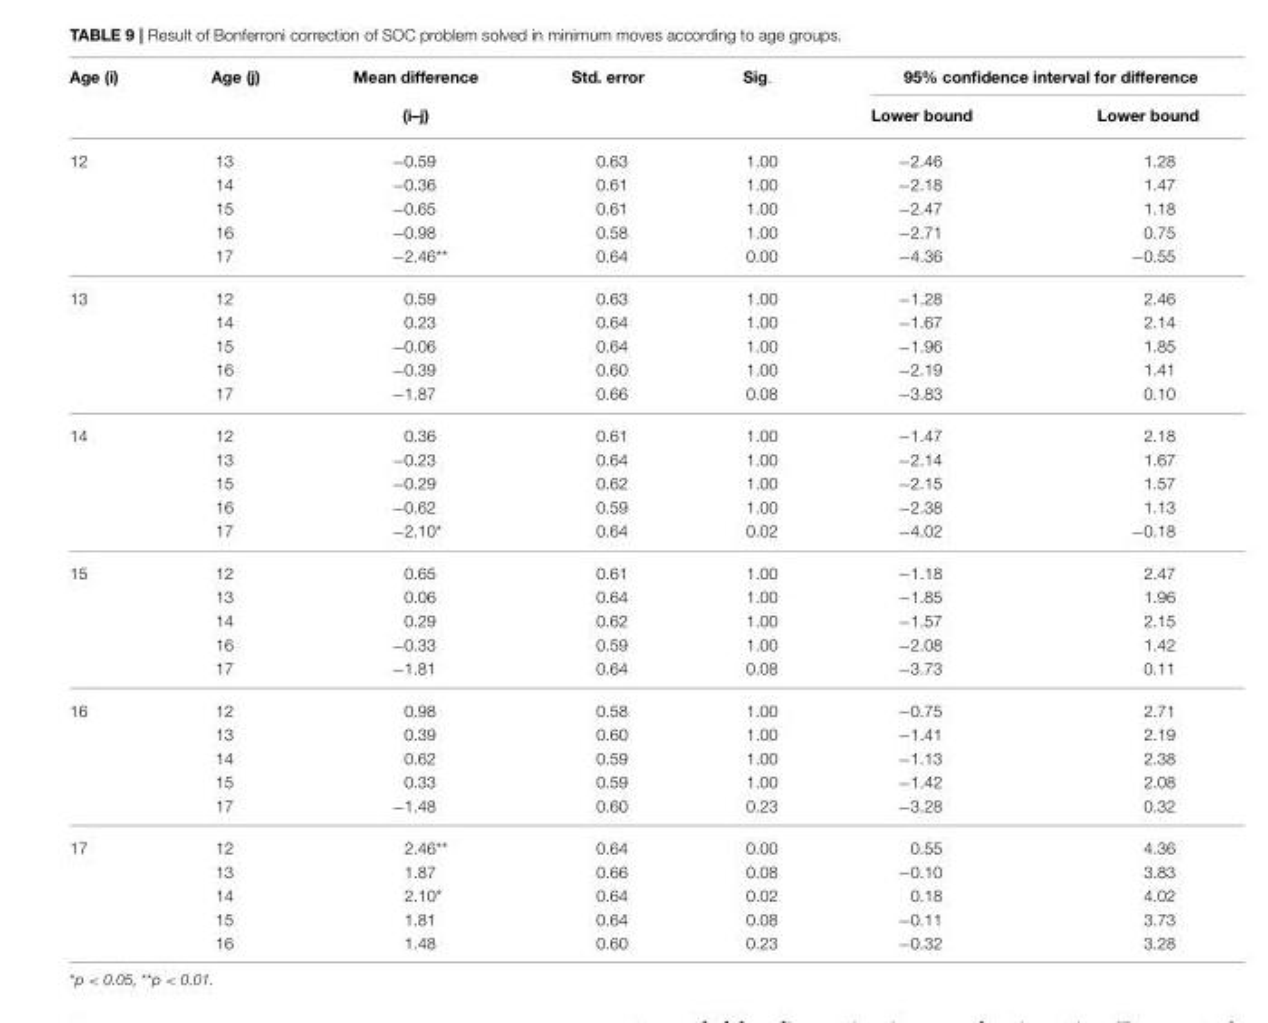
<table><thead><tr><td rowspan="2">Age (i)</td><td rowspan="2">Age (j)</td><td rowspan="2">Mean difference (i–j)</td><td rowspan="2">Std. error</td><td rowspan="2">Sig.</td><td colspan="2">95% confidence interval for difference</td></tr><tr><td>Lower bound</td><td>Lower bound</td></tr></thead><tbody><tr><td rowspan="5">12</td><td>13</td><td>−0.59</td><td>0.63</td><td>1.00</td><td>−2.46</td><td>1.28</td></tr><tr><td>14</td><td>−0.36</td><td>0.61</td><td>1.00</td><td>−2.18</td><td>1.47</td></tr><tr><td>15</td><td>−0.65</td><td>0.61</td><td>1.00</td><td>−2.47</td><td>1.18</td></tr><tr><td>16</td><td>−0.98</td><td>0.58</td><td>1.00</td><td>−2.71</td><td>0.75</td></tr><tr><td>17</td><td>−2.46**</td><td>0.64</td><td>0.00</td><td>−4.36</td><td>−0.55</td></tr><tr><td rowspan="5">13</td><td>12</td><td>0.59</td><td>0.63</td><td>1.00</td><td>−1.28</td><td>2.46</td></tr><tr><td>14</td><td>0.23</td><td>0.64</td><td>1.00</td><td>−1.67</td><td>2.14</td></tr><tr><td>15</td><td>−0.06</td><td>0.64</td><td>1.00</td><td>−1.96</td><td>1.85</td></tr><tr><td>16</td><td>−0.39</td><td>0.60</td><td>1.00</td><td>−2.19</td><td>1.41</td></tr><tr><td>17</td><td>−1.87</td><td>0.66</td><td>0.08</td><td>−3.83</td><td>0.10</td></tr><tr><td rowspan="5">14</td><td>12</td><td>0.36</td><td>0.61</td><td>1.00</td><td>−1.47</td><td>2.18</td></tr><tr><td>13</td><td>−0.23</td><td>0.64</td><td>1.00</td><td>−2.14</td><td>1.67</td></tr><tr><td>15</td><td>−0.29</td><td>0.62</td><td>1.00</td><td>−2.15</td><td>1.57</td></tr><tr><td>16</td><td>−0.62</td><td>0.59</td><td>1.00</td><td>−2.38</td><td>1.13</td></tr><tr><td>17</td><td>−2.10*</td><td>0.64</td><td>0.02</td><td>−4.02</td><td>−0.18</td></tr><tr><td rowspan="5">15</td><td>12</td><td>0.65</td><td>0.61</td><td>1.00</td><td>−1.18</td><td>2.47</td></tr><tr><td>13</td><td>0.06</td><td>0.64</td><td>1.00</td><td>−1.85</td><td>1.96</td></tr><tr><td>14</td><td>0.29</td><td>0.62</td><td>1.00</td><td>−1.57</td><td>2.15</td></tr><tr><td>16</td><td>−0.33</td><td>0.59</td><td>1.00</td><td>−2.08</td><td>1.42</td></tr><tr><td>17</td><td>−1.81</td><td>0.64</td><td>0.08</td><td>−3.73</td><td>0.11</td></tr><tr><td rowspan="5">16</td><td>12</td><td>0.98</td><td>0.58</td><td>1.00</td><td>−0.75</td><td>2.71</td></tr><tr><td>13</td><td>0.39</td><td>0.60</td><td>1.00</td><td>−1.41</td><td>2.19</td></tr><tr><td>14</td><td>0.62</td><td>0.59</td><td>1.00</td><td>−1.13</td><td>2.38</td></tr><tr><td>15</td><td>0.33</td><td>0.59</td><td>1.00</td><td>−1.42</td><td>2.08</td></tr><tr><td>17</td><td>−1.48</td><td>0.60</td><td>0.23</td><td>−3.28</td><td>0.32</td></tr><tr><td rowspan="5">17</td><td>12</td><td>2.46**</td><td>0.64</td><td>0.00</td><td>0.55</td><td>4.36</td></tr><tr><td>13</td><td>1.87</td><td>0.66</td><td>0.08</td><td>−0.10</td><td>3.83</td></tr><tr><td>14</td><td>2.10*</td><td>0.64</td><td>0.02</td><td>0.18</td><td>4.02</td></tr><tr><td>15</td><td>1.81</td><td>0.64</td><td>0.08</td><td>−0.11</td><td>3.73</td></tr><tr><td>16</td><td>1.48</td><td>0.60</td><td>0.23</td><td>−0.32</td><td>3.28</td></tr></tbody></table>